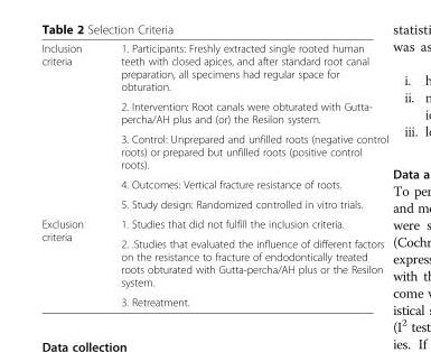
<table><tbody><tr><td rowspan="5">Inclusion criteria</td><td>1. Participants: Freshly extracted single rooted human teeth with closed apices, and after standard root canal preparation, all specimens had regular space for obturation.</td></tr><tr><td>2. Intervention: Root canals were obturated with Gutta- percha/AH plus and (or) the Resilon system.</td></tr><tr><td>3. Control: Unprepared and unfilled roots (negative control roots) or prepared but unfilled roots (positive control roots).</td></tr><tr><td>4. Outcomes: Vertical fracture resistance of roots.</td></tr><tr><td>5. Study design: Randomized controlled in vitro trials.</td></tr><tr><td rowspan="3">Exclusion criteria</td><td>1. Studies that did not fulfill the inclusion criteria.</td></tr><tr><td>2. .Studies that evaluated the influence of different factors on the resistance to fracture of endodontically treated roots obturated with Gutta-percha/AH plus or the Resilon system.</td></tr><tr><td>3. Retreatment.</td></tr></tbody></table>